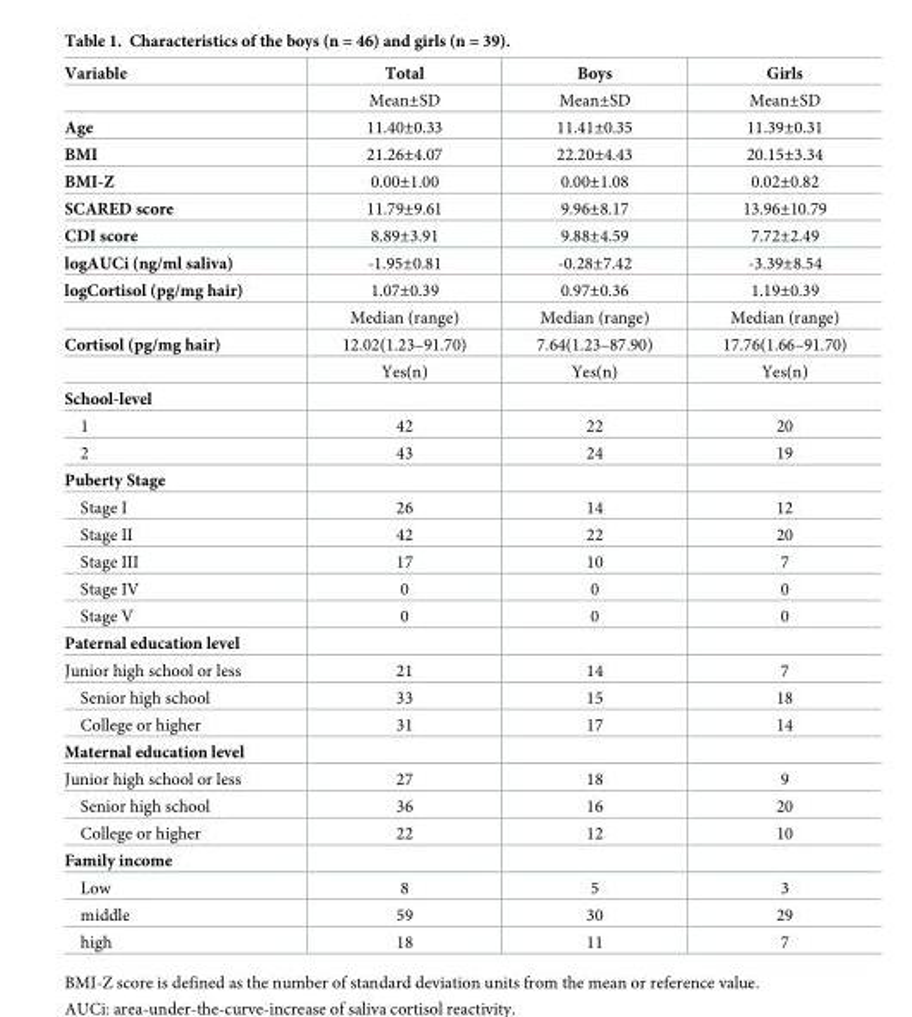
<table><thead><tr><td>Variable</td><td>Total</td><td>Boys</td><td>Girls</td></tr></thead><tbody><tr><td></td><td>Mean±SD</td><td>Mean±SD</td><td>Mean±SD</td></tr><tr><td>Age</td><td>11.40±0.33</td><td>11.41±0.35</td><td>11.39±0.31</td></tr><tr><td>BMI</td><td>21.26±4.07</td><td>22.20±4.43</td><td>20.15±3.34</td></tr><tr><td>BMI-Z</td><td>0.00±1.00</td><td>0.00±1.08</td><td>0.02±0.82</td></tr><tr><td>SCARED score</td><td>11.79±9.61</td><td>9.96±8.17</td><td>13.96±10.79</td></tr><tr><td>CDI score</td><td>8.89±3.91</td><td>9.88±4.59</td><td>7.72±2.49</td></tr><tr><td>logAUCi (ng/ml saliva)</td><td>-1.95±0.81</td><td>-0.28±7.42</td><td>-3.39±8.54</td></tr><tr><td rowspan="2">logCortisol (pg/mg hair)</td><td>1.07±0.39</td><td>0.97±0.36</td><td>1.19±0.39</td></tr><tr><td>Median (range)</td><td>Median (range)</td><td>Median (range)</td></tr><tr><td rowspan="2">Cortisol (pg/mg hair)</td><td>12.02(1.23–91.70)</td><td>7.64(1.23–87.90)</td><td>17.76(1.66–91.70)</td></tr><tr><td>Yes(n)</td><td>Yes(n)</td><td>Yes(n)</td></tr><tr><td colspan="4">School-level</td></tr><tr><td>1</td><td>42</td><td>22</td><td>20</td></tr><tr><td>2</td><td>43</td><td>24</td><td>19</td></tr><tr><td colspan="4">Puberty Stage</td></tr><tr><td>Stage I</td><td>26</td><td>14</td><td>12</td></tr><tr><td>Stage II</td><td>42</td><td>22</td><td>20</td></tr><tr><td>Stage III</td><td>17</td><td>10</td><td>7</td></tr><tr><td>Stage IV</td><td>0</td><td>0</td><td>0</td></tr><tr><td>Stage V</td><td>0</td><td>0</td><td>0</td></tr><tr><td colspan="4">Paternal education level</td></tr><tr><td>Junior high school or less</td><td>21</td><td>14</td><td>7</td></tr><tr><td>Senior high school</td><td>33</td><td>15</td><td>18</td></tr><tr><td>College or higher</td><td>31</td><td>17</td><td>14</td></tr><tr><td colspan="4">Maternal education level</td></tr><tr><td>Junior high school or less</td><td>27</td><td>18</td><td>9</td></tr><tr><td>Senior high school</td><td>36</td><td>16</td><td>20</td></tr><tr><td>College or higher</td><td>22</td><td>12</td><td>10</td></tr><tr><td colspan="4">Family income</td></tr><tr><td>Low</td><td>8</td><td>5</td><td>3</td></tr><tr><td>middle</td><td>59</td><td>30</td><td>29</td></tr><tr><td>high</td><td>18</td><td>11</td><td>7</td></tr></tbody></table>